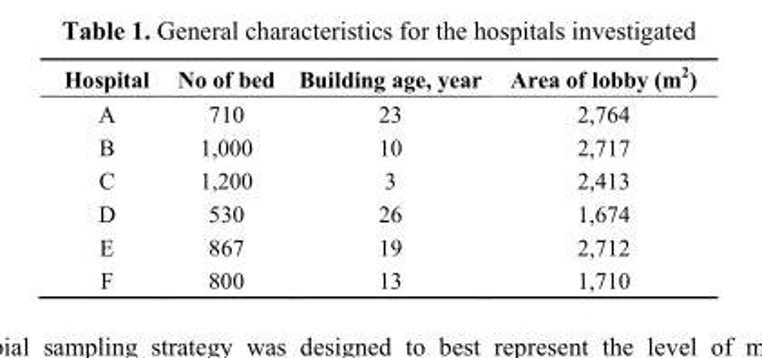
<table><thead><tr><td>Hospital</td><td>No of bed</td><td>Building age, year</td><td>Area of lobby (m<sup>2</sup>)</td></tr></thead><tbody><tr><td>A</td><td>710</td><td>23</td><td>2,764</td></tr><tr><td>B</td><td>1,000</td><td>10</td><td>2,717</td></tr><tr><td>C</td><td>1,200</td><td>3</td><td>2,413</td></tr><tr><td>D</td><td>530</td><td>26</td><td>1,674</td></tr><tr><td>E</td><td>867</td><td>19</td><td>2,712</td></tr><tr><td>F</td><td>800</td><td>13</td><td>1,710</td></tr></tbody></table>